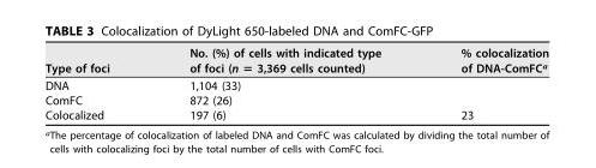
<table><thead><tr><td>Type of foci</td><td>No. (%) of cells with indicated type of foci (n = 3,369 cells counted)</td><td>% colocalization of DNA-ComFC<sup>a</sup></td></tr></thead><tbody><tr><td>DNA</td><td>1,104 (33)</td><td></td></tr><tr><td>ComFC</td><td>872 (26)</td><td></td></tr><tr><td>Colocalized</td><td>197 (6)</td><td>23</td></tr></tbody></table>